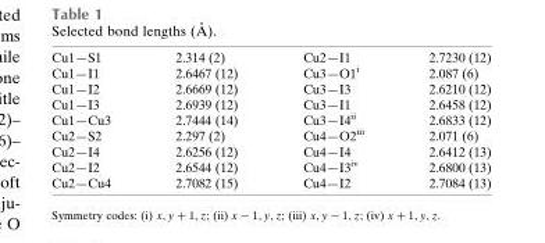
<table><tbody><tr><td>Cu1—S1</td><td>2.314 (2)</td><td>Cu2—I1</td><td>2.7230 (12)</td></tr><tr><td>Cu1—I1</td><td>2.6467 (12)</td><td>Cu3—O1<sup>i</sup></td><td>2.087 (6)</td></tr><tr><td>Cu1—I2</td><td>2.6669 (12)</td><td>Cu3—I3</td><td>2.6210 (12)</td></tr><tr><td>Cu1—I3</td><td>2.6939 (12)</td><td>Cu3—I1</td><td>2.6458 (12)</td></tr><tr><td>Cu1—Cu3</td><td>2.7444 (14)</td><td>Cu3—I4<sup>ii</sup></td><td>2.6833 (12)</td></tr><tr><td>Cu2—S2</td><td>2.297 (2)</td><td>Cu4—O2<sup>iii</sup></td><td>2.071 (6)</td></tr><tr><td>Cu2—I4</td><td>2.6256 (12)</td><td>Cu4—I4</td><td>2.6412 (13)</td></tr><tr><td>Cu2—I2</td><td>2.6544 (12)</td><td>Cu4—I3<sup>iv</sup></td><td>2.6800 (13)</td></tr><tr><td>Cu2—Cu4</td><td>2.7082 (15)</td><td>Cu4—I2</td><td>2.7084 (13)</td></tr></tbody></table>